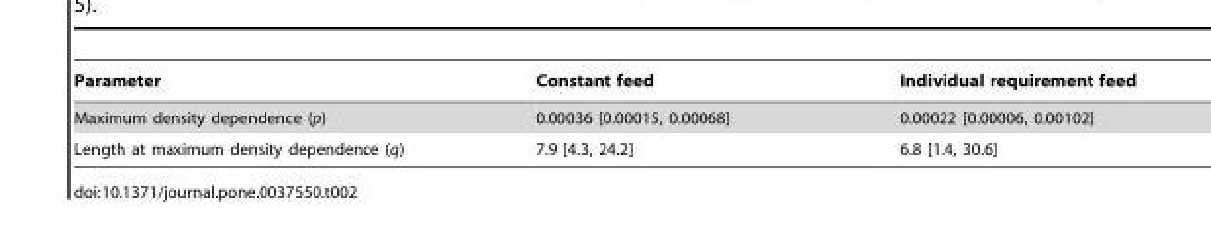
<table><thead><tr><td>Parameter</td><td>Constant feed</td><td>Individual requirement feed</td></tr></thead><tbody><tr><td>Maximum density dependence (p)</td><td>0.00036 [0.00015, 0.00068]</td><td>0.00022 [0.00006, 0.00102]</td></tr><tr><td>Length at maximum density dependence (q)</td><td>7.9 [4.3, 24.2]</td><td>6.8 [1.4, 30.6]</td></tr></tbody></table>